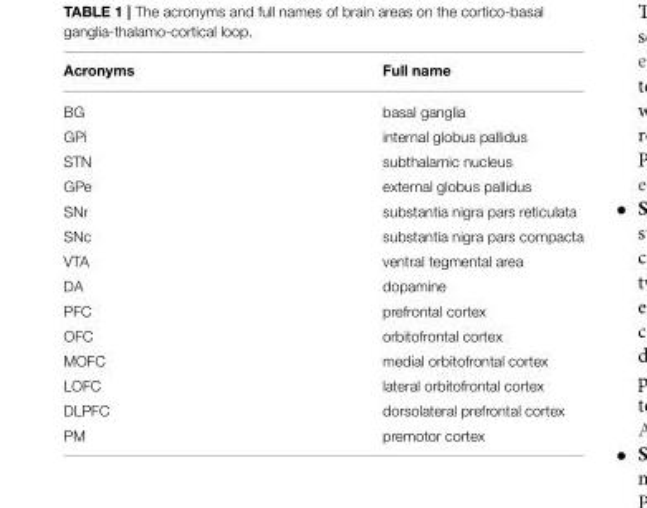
<table><thead><tr><td>Acronyms</td><td>Full name</td></tr></thead><tbody><tr><td>BG</td><td>basal ganglia</td></tr><tr><td>GPi</td><td>internal globus pallidus</td></tr><tr><td>STN</td><td>subthalamic nucleus</td></tr><tr><td>GPe</td><td>external globus pallidus</td></tr><tr><td>SNr</td><td>substantia nigra pars reticulata</td></tr><tr><td>SNc</td><td>substantia nigra pars compacta</td></tr><tr><td>VTA</td><td>ventral tegmental area</td></tr><tr><td>DA</td><td>dopamine</td></tr><tr><td>PFC</td><td>prefrontal cortex</td></tr><tr><td>OFC</td><td>orbitofrontal cortex</td></tr><tr><td>MOFC</td><td>medial orbitofrontal cortex</td></tr><tr><td>LOFC</td><td>lateral orbitofrontal cortex</td></tr><tr><td>DLPFC</td><td>dorsolateral prefrontal cortex</td></tr><tr><td>PM</td><td>premotor cortex</td></tr></tbody></table>